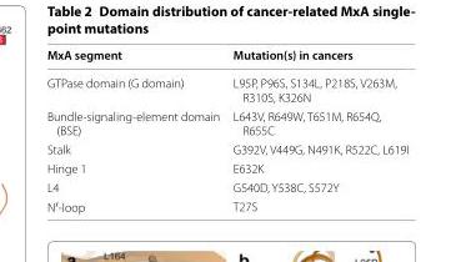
<table><thead><tr><td>MxA segment</td><td>Mutation(s) in cancers</td></tr></thead><tbody><tr><td>GTPase domain (G domain)</td><td>L95P, P96S, S134L, P218S, V263M, R310S, K326N</td></tr><tr><td>Bundle‑signaling‑element domain (BSE)</td><td>L643V, R649W, T651M, R654Q, R655C</td></tr><tr><td>Stalk</td><td>G392V, V449G, N491K, R522C, L619I</td></tr><tr><td>Hinge 1</td><td>E632K</td></tr><tr><td>L4</td><td>G540D, Y538C, S572Y</td></tr><tr><td>N′‑loop</td><td>T27S</td></tr></tbody></table>